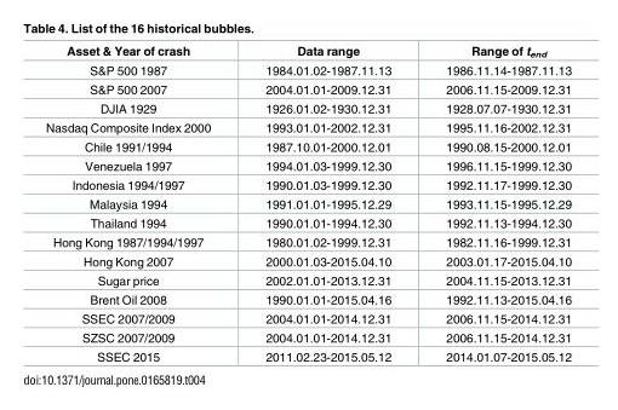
<table><thead><tr><td>Asset &amp; Year of crash</td><td>Data range</td><td>Range of t<sub>end</sub></td></tr></thead><tbody><tr><td>S&amp;P 500 1987</td><td>1984.01.02-1987.11.13</td><td>1986.11.14-1987.11.13</td></tr><tr><td>S&amp;P 500 2007</td><td>2004.01.01-2009.12.31</td><td>2006.11.15-2009.12.31</td></tr><tr><td>DJIA 1929</td><td>1926.01.02-1930.12.31</td><td>1928.07.07-1930.12.31</td></tr><tr><td>Nasdaq Composite Index 2000</td><td>1993.01.01-2002.12.31</td><td>1995.11.16-2002.12.31</td></tr><tr><td>Chile 1991/1994</td><td>1987.10.01-2000.12.01</td><td>1990.08.15-2000.12.01</td></tr><tr><td>Venezuela 1997</td><td>1994.01.03-1999.12.30</td><td>1996.11.15-1999.12.30</td></tr><tr><td>Indonesia 1994/1997</td><td>1990.01.03-1999.12.30</td><td>1992.11.17-1999.12.30</td></tr><tr><td>Malaysia 1994</td><td>1991.01.01-1995.12.29</td><td>1993.11.15-1995.12.29</td></tr><tr><td>Thailand 1994</td><td>1990.01.01-1994.12.30</td><td>1992.11.13-1994.12.30</td></tr><tr><td>Hong Kong 1987/1994/1997</td><td>1980.01.02-1999.12.31</td><td>1982.11.16-1999.12.31</td></tr><tr><td>Hong Kong 2007</td><td>2000.01.03-2015.04.10</td><td>2003.01.17-2015.04.10</td></tr><tr><td>Sugar price</td><td>2002.01.01-2013.12.31</td><td>2004.11.15-2013.12.31</td></tr><tr><td>Brent Oil 2008</td><td>1990.01.01-2015.04.16</td><td>1992.11.13-2015.04.16</td></tr><tr><td>SSEC 2007/2009</td><td>2004.01.01-2014.12.31</td><td>2006.11.15-2014.12.31</td></tr><tr><td>SZSC 2007/2009</td><td>2004.01.01-2014.12.31</td><td>2006.11.15-2014.12.31</td></tr><tr><td>SSEC 2015</td><td>2011.02.23-2015.05.12</td><td>2014.01.07-2015.05.12</td></tr></tbody></table>